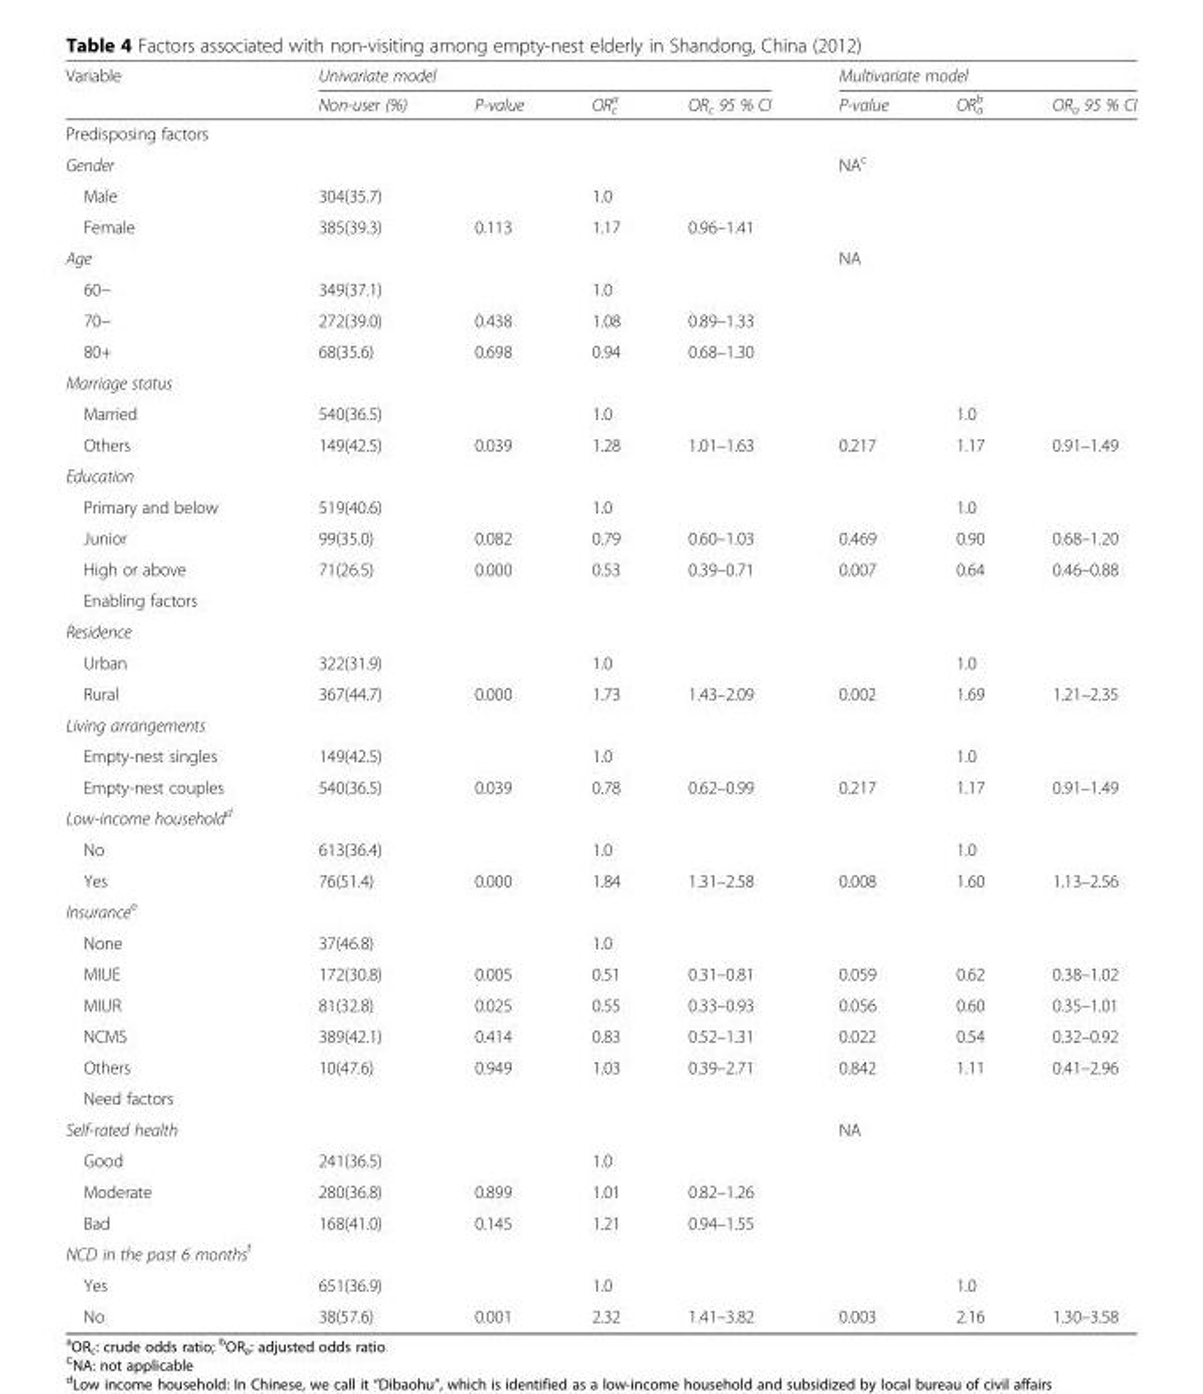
<table><thead><tr><td rowspan="2">Variable</td><td colspan="4">Univariate model</td><td colspan="3">Multivariate model</td></tr><tr><td>Non-user (%)</td><td>P-value</td><td>OR<sub>c</sub> <sup>a</sup></td><td>OR<sub>c</sub> 95 % CI</td><td>P-value</td><td>OR<sub>a</sub> <sup>b</sup></td><td>OR<sub>a</sub> 95 % CI</td></tr></thead><tbody><tr><td colspan="8">Predisposing factors</td></tr><tr><td>Gender</td><td></td><td></td><td></td><td></td><td>NA<sup>c</sup></td><td></td><td></td></tr><tr><td>Male</td><td>304(35.7)</td><td></td><td>1.0</td><td></td><td></td><td></td><td></td></tr><tr><td>Female</td><td>385(39.3)</td><td>0.113</td><td>1.17</td><td>0.96–1.41</td><td></td><td></td><td></td></tr><tr><td>Age</td><td></td><td></td><td></td><td></td><td>NA</td><td></td><td></td></tr><tr><td>60−</td><td>349(37.1)</td><td></td><td>1.0</td><td></td><td></td><td></td><td></td></tr><tr><td>70−</td><td>272(39.0)</td><td>0.438</td><td>1.08</td><td>0.89–1.33</td><td></td><td></td><td></td></tr><tr><td>80+</td><td>68(35.6)</td><td>0.698</td><td>0.94</td><td>0.68–1.30</td><td></td><td></td><td></td></tr><tr><td colspan="8">Marriage status</td></tr><tr><td>Married</td><td>540(36.5)</td><td></td><td>1.0</td><td></td><td></td><td>1.0</td><td></td></tr><tr><td>Others</td><td>149(42.5)</td><td>0.039</td><td>1.28</td><td>1.01–1.63</td><td>0.217</td><td>1.17</td><td>0.91–1.49</td></tr><tr><td colspan="8">Education</td></tr><tr><td>Primary and below</td><td>519(40.6)</td><td></td><td>1.0</td><td></td><td></td><td>1.0</td><td></td></tr><tr><td>Junior</td><td>99(35.0)</td><td>0.082</td><td>0.79</td><td>0.60–1.03</td><td>0.469</td><td>0.90</td><td>0.68–1.20</td></tr><tr><td>High or above</td><td>71(26.5)</td><td>0.000</td><td>0.53</td><td>0.39–0.71</td><td>0.007</td><td>0.64</td><td>0.46–0.88</td></tr><tr><td colspan="8">Enabling factors</td></tr><tr><td colspan="8">Residence</td></tr><tr><td>Urban</td><td>322(31.9)</td><td></td><td>1.0</td><td></td><td></td><td>1.0</td><td></td></tr><tr><td>Rural</td><td>367(44.7)</td><td>0.000</td><td>1.73</td><td>1.43–2.09</td><td>0.002</td><td>1.69</td><td>1.21–2.35</td></tr><tr><td colspan="8">Living arrangements</td></tr><tr><td>Empty-nest singles</td><td>149(42.5)</td><td></td><td>1.0</td><td></td><td></td><td>1.0</td><td></td></tr><tr><td>Empty-nest couples</td><td>540(36.5)</td><td>0.039</td><td>0.78</td><td>0.62–0.99</td><td>0.217</td><td>1.17</td><td>0.91–1.49</td></tr><tr><td colspan="8">Low-income household<sup>d</sup></td></tr><tr><td>No</td><td>613(36.4)</td><td></td><td>1.0</td><td></td><td></td><td>1.0</td><td></td></tr><tr><td>Yes</td><td>76(51.4)</td><td>0.000</td><td>1.84</td><td>1.31–2.58</td><td>0.008</td><td>1.60</td><td>1.13–2.56</td></tr><tr><td colspan="8">Insurance<sup>e</sup></td></tr><tr><td>None</td><td>37(46.8)</td><td></td><td>1.0</td><td></td><td></td><td></td><td></td></tr><tr><td>MIUE</td><td>172(30.8)</td><td>0.005</td><td>0.51</td><td>0.31–0.81</td><td>0.059</td><td>0.62</td><td>0.38–1.02</td></tr><tr><td>MIUR</td><td>81(32.8)</td><td>0.025</td><td>0.55</td><td>0.33–0.93</td><td>0.056</td><td>0.60</td><td>0.35–1.01</td></tr><tr><td>NCMS</td><td>389(42.1)</td><td>0.414</td><td>0.83</td><td>0.52–1.31</td><td>0.022</td><td>0.54</td><td>0.32–0.92</td></tr><tr><td>Others</td><td>10(47.6)</td><td>0.949</td><td>1.03</td><td>0.39–2.71</td><td>0.842</td><td>1.11</td><td>0.41–2.96</td></tr><tr><td colspan="8">Need factors</td></tr><tr><td>Self-rated health</td><td></td><td></td><td></td><td></td><td>NA</td><td></td><td></td></tr><tr><td>Good</td><td>241(36.5)</td><td></td><td>1.0</td><td></td><td></td><td></td><td></td></tr><tr><td>Moderate</td><td>280(36.8)</td><td>0.899</td><td>1.01</td><td>0.82–1.26</td><td></td><td></td><td></td></tr><tr><td>Bad</td><td>168(41.0)</td><td>0.145</td><td>1.21</td><td>0.94–1.55</td><td></td><td></td><td></td></tr><tr><td colspan="8">NCD in the past 6 months<sup>f</sup></td></tr><tr><td>Yes</td><td>651(36.9)</td><td></td><td>1.0</td><td></td><td></td><td>1.0</td><td></td></tr><tr><td>No</td><td>38(57.6)</td><td>0.001</td><td>2.32</td><td>1.41–3.82</td><td>0.003</td><td>2.16</td><td>1.30–3.58</td></tr></tbody></table>